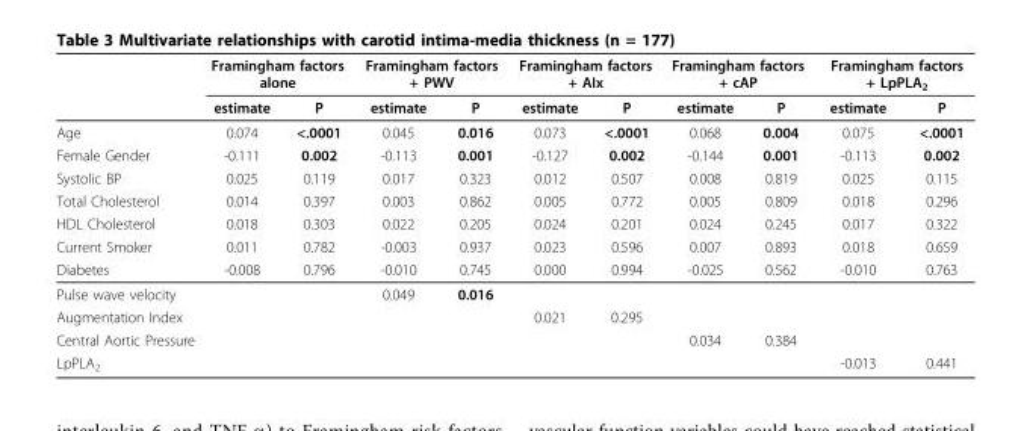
<table><thead><tr><td rowspan="2"></td><td colspan="2">Framingham factors alone</td><td colspan="2">Framingham factors + PWV</td><td colspan="2">Framingham factors + AIx</td><td colspan="2">Framingham factors + cAP</td><td colspan="2">Framingham factors + LpPLA<sub>2</sub></td></tr><tr><td>estimate</td><td>P</td><td>estimate</td><td>P</td><td>estimate</td><td>P</td><td>estimate</td><td>P</td><td>estimate</td><td>P</td></tr></thead><tbody><tr><td>Age</td><td>0.074</td><td>&lt;.0001</td><td>0.045</td><td>0.016</td><td>0.073</td><td>&lt;.0001</td><td>0.068</td><td>0.004</td><td>0.075</td><td>&lt;.0001</td></tr><tr><td>Female Gender</td><td>-0.111</td><td>0.002</td><td>-0.113</td><td>0.001</td><td>-0.127</td><td>0.002</td><td>-0.144</td><td>0.001</td><td>-0.113</td><td>0.002</td></tr><tr><td>Systolic BP</td><td>0.025</td><td>0.119</td><td>0.017</td><td>0.323</td><td>0.012</td><td>0.507</td><td>0.008</td><td>0.819</td><td>0.025</td><td>0.115</td></tr><tr><td>Total Cholesterol</td><td>0.014</td><td>0.397</td><td>0.003</td><td>0.862</td><td>0.005</td><td>0.772</td><td>0.005</td><td>0.809</td><td>0.018</td><td>0.296</td></tr><tr><td>HDL Cholesterol</td><td>0.018</td><td>0.303</td><td>0.022</td><td>0.205</td><td>0.024</td><td>0.201</td><td>0.024</td><td>0.245</td><td>0.017</td><td>0.322</td></tr><tr><td>Current Smoker</td><td>0.011</td><td>0.782</td><td>-0.003</td><td>0.937</td><td>0.023</td><td>0.596</td><td>0.007</td><td>0.893</td><td>0.018</td><td>0.659</td></tr><tr><td>Diabetes</td><td>-0.008</td><td>0.796</td><td>-0.010</td><td>0.745</td><td>0.000</td><td>0.994</td><td>-0.025</td><td>0.562</td><td>-0.010</td><td>0.763</td></tr><tr><td>Pulse wave velocity</td><td></td><td></td><td>0.049</td><td>0.016</td><td></td><td></td><td></td><td></td><td></td><td></td></tr><tr><td>Augmentation Index</td><td></td><td></td><td></td><td></td><td>0.021</td><td>0.295</td><td></td><td></td><td></td><td></td></tr><tr><td>Central Aortic Pressure</td><td></td><td></td><td></td><td></td><td></td><td></td><td>0.034</td><td>0.384</td><td></td><td></td></tr><tr><td>LpPLA<sub>2</sub></td><td></td><td></td><td></td><td></td><td></td><td></td><td></td><td></td><td>-0.013</td><td>0.441</td></tr></tbody></table>